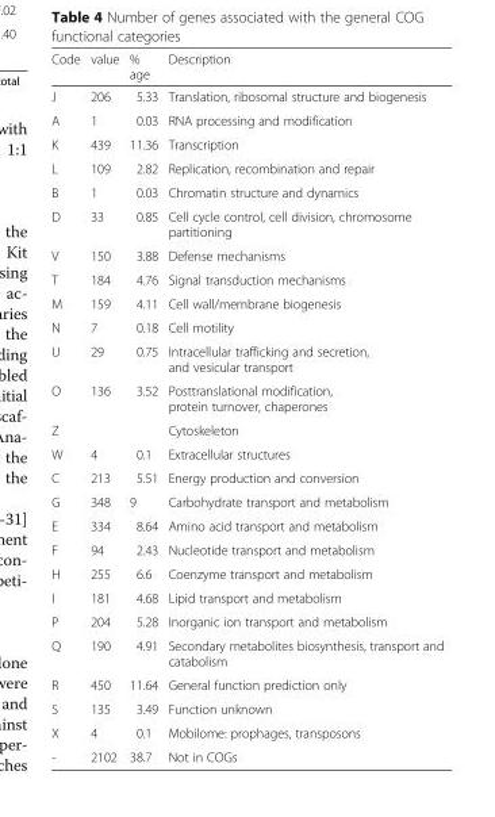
<table><thead><tr><td>Code</td><td>value</td><td>% age</td><td>Description</td></tr></thead><tbody><tr><td>J</td><td>206</td><td>5.33</td><td>Translation, ribosomal structure and biogenesis</td></tr><tr><td>A</td><td>1</td><td>0.03</td><td>RNA processing and modification</td></tr><tr><td>K</td><td>439</td><td>11.36</td><td>Transcription</td></tr><tr><td>L</td><td>109</td><td>2.82</td><td>Replication, recombination and repair</td></tr><tr><td>B</td><td>1</td><td>0.03</td><td>Chromatin structure and dynamics</td></tr><tr><td>D</td><td>33</td><td>0.85</td><td>Cell cycle control, cell division, chromosome partitioning</td></tr><tr><td>V</td><td>150</td><td>3.88</td><td>Defense mechanisms</td></tr><tr><td>T</td><td>184</td><td>4.76</td><td>Signal transduction mechanisms</td></tr><tr><td>M</td><td>159</td><td>4.11</td><td>Cell wall/membrane biogenesis</td></tr><tr><td>N</td><td>7</td><td>0.18</td><td>Cell motility</td></tr><tr><td>U</td><td>29</td><td>0.75</td><td>Intracellular trafficking and secretion, and vesicular transport</td></tr><tr><td>O</td><td>136</td><td>3.52</td><td>Posttranslational modification, protein turnover, chaperones</td></tr><tr><td>Z</td><td></td><td></td><td>Cytoskeleton</td></tr><tr><td>W</td><td>4</td><td>0.1</td><td>Extracellular structures</td></tr><tr><td>C</td><td>213</td><td>5.51</td><td>Energy production and conversion</td></tr><tr><td>G</td><td>348</td><td>9</td><td>Carbohydrate transport and metabolism</td></tr><tr><td>E</td><td>334</td><td>8.64</td><td>Amino acid transport and metabolism</td></tr><tr><td>F</td><td>94</td><td>2.43</td><td>Nucleotide transport and metabolism</td></tr><tr><td>H</td><td>255</td><td>6.6</td><td>Coenzyme transport and metabolism</td></tr><tr><td>I</td><td>181</td><td>4.68</td><td>Lipid transport and metabolism</td></tr><tr><td>P</td><td>204</td><td>5.28</td><td>Inorganic ion transport and metabolism</td></tr><tr><td>Q</td><td>190</td><td>4.91</td><td>Secondary metabolites biosynthesis, transport and catabolism</td></tr><tr><td>R</td><td>450</td><td>11.64</td><td>General function prediction only</td></tr><tr><td>S</td><td>135</td><td>3.49</td><td>Function unknown</td></tr><tr><td>X</td><td>4</td><td>0.1</td><td>Mobilome: prophages, transposons</td></tr><tr><td>-</td><td>2102</td><td>38.7</td><td>Not in COGs</td></tr></tbody></table>